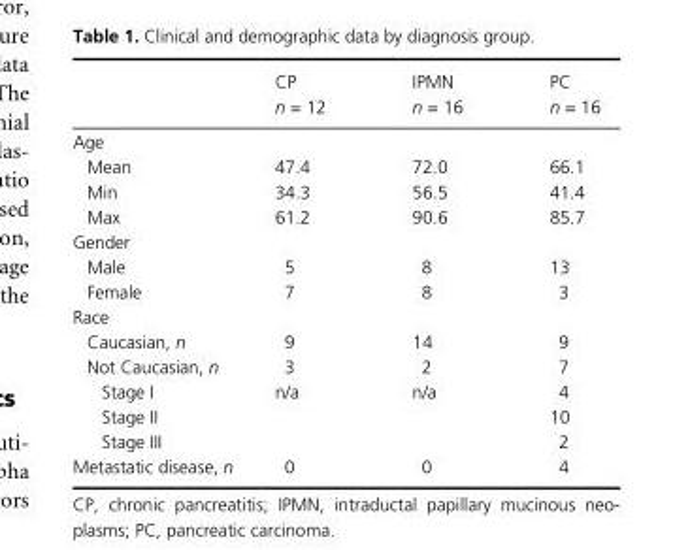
<table><thead><tr><td></td><td>CP n = 12</td><td>IPMN n = 16</td><td>PC n = 16</td></tr></thead><tbody><tr><td colspan="4">Age</td></tr><tr><td>Mean</td><td>47.4</td><td>72.0</td><td>66.1</td></tr><tr><td>Min</td><td>34.3</td><td>56.5</td><td>41.4</td></tr><tr><td>Max</td><td>61.2</td><td>90.6</td><td>85.7</td></tr><tr><td colspan="4">Gender</td></tr><tr><td>Male</td><td>5</td><td>8</td><td>13</td></tr><tr><td>Female</td><td>7</td><td>8</td><td>3</td></tr><tr><td colspan="4">Race</td></tr><tr><td>Caucasian, n</td><td>9</td><td>14</td><td>9</td></tr><tr><td>Not Caucasian, n</td><td>3</td><td>2</td><td>7</td></tr><tr><td>Stage I</td><td>n/a</td><td>n/a</td><td>4</td></tr><tr><td>Stage II</td><td></td><td></td><td>10</td></tr><tr><td>Stage III</td><td></td><td></td><td>2</td></tr><tr><td>Metastatic disease, n</td><td>0</td><td>0</td><td>4</td></tr></tbody></table>